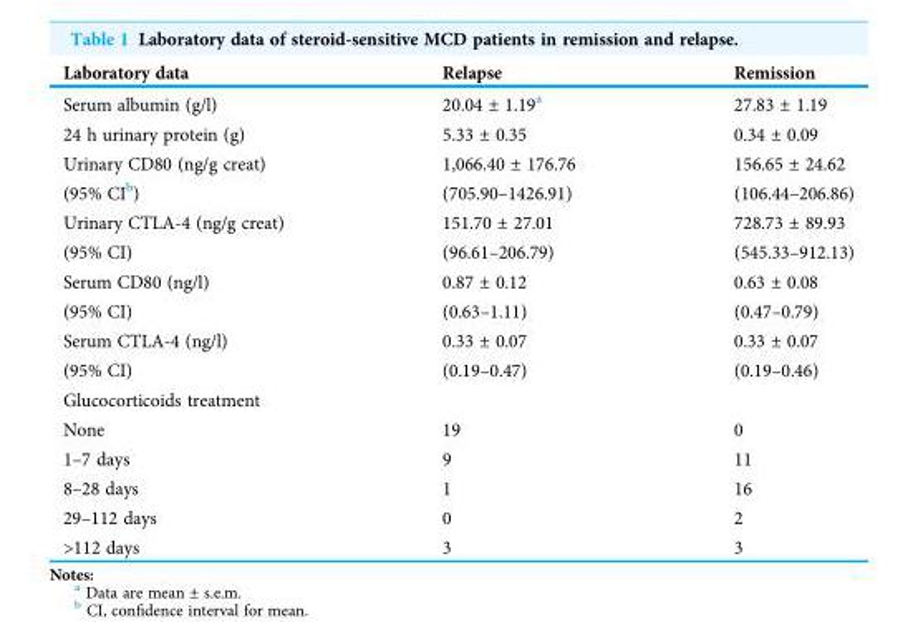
<table><thead><tr><td>Laboratory data</td><td>Relapse</td><td>Remission</td></tr></thead><tbody><tr><td>Serum albumin (g/l)</td><td>20.04 ± 1.19<sup>a</sup></td><td>27.83 ± 1.19</td></tr><tr><td>24 h urinary protein (g)</td><td>5.33 ± 0.35</td><td>0.34 ± 0.09</td></tr><tr><td>Urinary CD80 (ng/g creat)</td><td>1,066.40 ± 176.76</td><td>156.65 ± 24.62</td></tr><tr><td>(95% CI<sup>b</sup>)</td><td>(705.90–1426.91)</td><td>(106.44–206.86)</td></tr><tr><td>Urinary CTLA-4 (ng/g creat)</td><td>151.70 ± 27.01</td><td>728.73 ± 89.93</td></tr><tr><td>(95% CI)</td><td>(96.61–206.79)</td><td>(545.33–912.13)</td></tr><tr><td>Serum CD80 (ng/l)</td><td>0.87 ± 0.12</td><td>0.63 ± 0.08</td></tr><tr><td>(95% CI)</td><td>(0.63–1.11)</td><td>(0.47–0.79)</td></tr><tr><td>Serum CTLA-4 (ng/l)</td><td>0.33 ± 0.07</td><td>0.33 ± 0.07</td></tr><tr><td>(95% CI)</td><td>(0.19–0.47)</td><td>(0.19–0.46)</td></tr><tr><td colspan="3">Glucocorticoids treatment</td></tr><tr><td>None</td><td>19</td><td>0</td></tr><tr><td>1–7 days</td><td>9</td><td>11</td></tr><tr><td>8–28 days</td><td>1</td><td>16</td></tr><tr><td>29–112 days</td><td>0</td><td>2</td></tr><tr><td>&gt;112 days</td><td>3</td><td>3</td></tr></tbody></table>